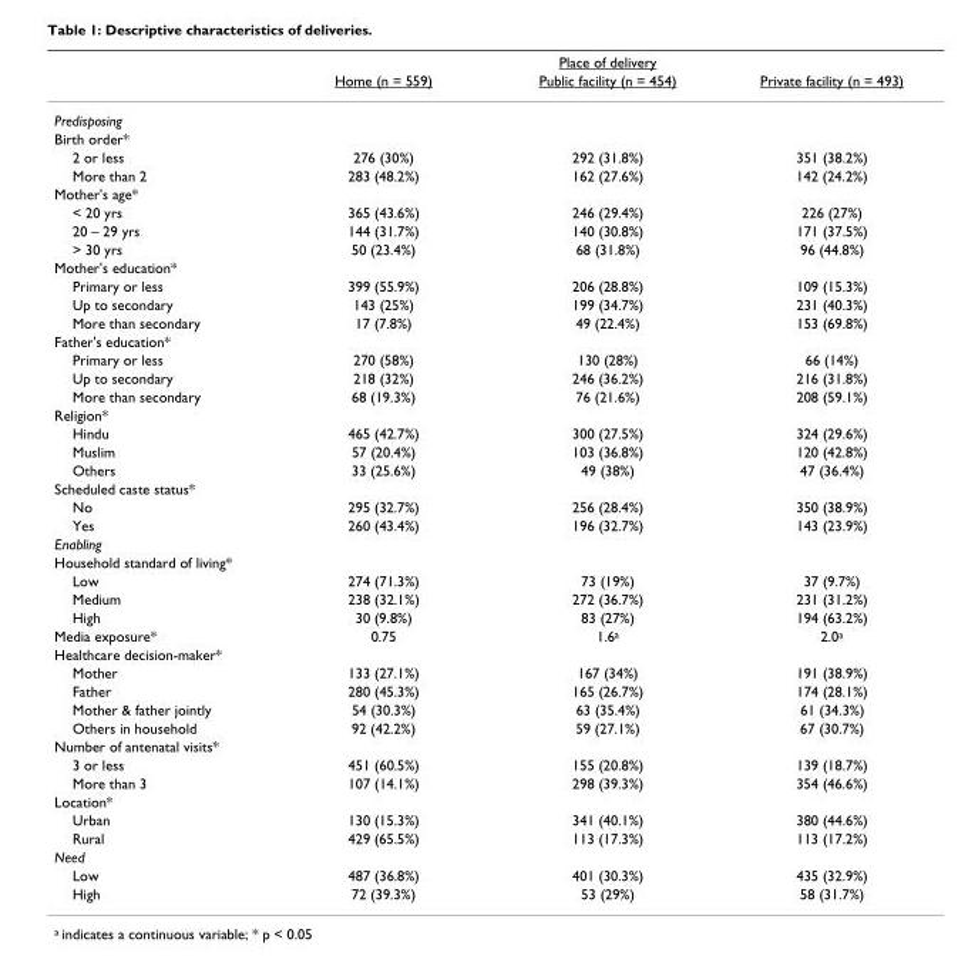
<table><thead><tr><td rowspan="2"></td><td colspan="3">Place of delivery</td></tr><tr><td>Home (n = 559)</td><td>Public facility (n = 454)</td><td>Private facility (n = 493)</td></tr></thead><tbody><tr><td colspan="4">Predisposing</td></tr><tr><td colspan="4">Birth order*</td></tr><tr><td>2 or less</td><td>276 (30%)</td><td>292 (31.8%)</td><td>351 (38.2%)</td></tr><tr><td>More than 2</td><td>283 (48.2%)</td><td>162 (27.6%)</td><td>142 (24.2%)</td></tr><tr><td colspan="4">Mother&#x27;s age*</td></tr><tr><td>&lt; 20 yrs</td><td>365 (43.6%)</td><td>246 (29.4%)</td><td>226 (27%)</td></tr><tr><td>20 – 29 yrs</td><td>144 (31.7%)</td><td>140 (30.8%)</td><td>171 (37.5%)</td></tr><tr><td>&gt; 30 yrs</td><td>50 (23.4%)</td><td>68 (31.8%)</td><td>96 (44.8%)</td></tr><tr><td colspan="4">Mother&#x27;s education*</td></tr><tr><td>Primary or less</td><td>399 (55.9%)</td><td>206 (28.8%)</td><td>109 (15.3%)</td></tr><tr><td>Up to secondary</td><td>143 (25%)</td><td>199 (34.7%)</td><td>231 (40.3%)</td></tr><tr><td>More than secondary</td><td>17 (7.8%)</td><td>49 (22.4%)</td><td>153 (69.8%)</td></tr><tr><td colspan="4">Father&#x27;s education*</td></tr><tr><td>Primary or less</td><td>270 (58%)</td><td>130 (28%)</td><td>66 (14%)</td></tr><tr><td>Up to secondary</td><td>218 (32%)</td><td>246 (36.2%)</td><td>216 (31.8%)</td></tr><tr><td>More than secondary</td><td>68 (19.3%)</td><td>76 (21.6%)</td><td>208 (59.1%)</td></tr><tr><td colspan="4">Religion*</td></tr><tr><td>Hindu</td><td>465 (42.7%)</td><td>300 (27.5%)</td><td>324 (29.6%)</td></tr><tr><td>Muslim</td><td>57 (20.4%)</td><td>103 (36.8%)</td><td>120 (42.8%)</td></tr><tr><td>Others</td><td>33 (25.6%)</td><td>49 (38%)</td><td>47 (36.4%)</td></tr><tr><td colspan="4">Scheduled caste status*</td></tr><tr><td>No</td><td>295 (32.7%)</td><td>256 (28.4%)</td><td>350 (38.9%)</td></tr><tr><td>Yes</td><td>260 (43.4%)</td><td>196 (32.7%)</td><td>143 (23.9%)</td></tr><tr><td colspan="4">Enabling</td></tr><tr><td colspan="4">Household standard of living*</td></tr><tr><td>Low</td><td>274 (71.3%)</td><td>73 (19%)</td><td>37 (9.7%)</td></tr><tr><td>Medium</td><td>238 (32.1%)</td><td>272 (36.7%)</td><td>231 (31.2%)</td></tr><tr><td>High</td><td>30 (9.8%)</td><td>83 (27%)</td><td>194 (63.2%)</td></tr><tr><td>Media exposure*</td><td>0.75</td><td>1.6<sup>a</sup></td><td>2.0<sup>a</sup></td></tr><tr><td colspan="4">Healthcare decision-maker*</td></tr><tr><td>Mother</td><td>133 (27.1%)</td><td>167 (34%)</td><td>191 (38.9%)</td></tr><tr><td>Father</td><td>280 (45.3%)</td><td>165 (26.7%)</td><td>174 (28.1%)</td></tr><tr><td>Mother &amp; father jointly</td><td>54 (30.3%)</td><td>63 (35.4%)</td><td>61 (34.3%)</td></tr><tr><td>Others in household</td><td>92 (42.2%)</td><td>59 (27.1%)</td><td>67 (30.7%)</td></tr><tr><td colspan="4">Number of antenatal visits*</td></tr><tr><td>3 or less</td><td>451 (60.5%)</td><td>155 (20.8%)</td><td>139 (18.7%)</td></tr><tr><td>More than 3</td><td>107 (14.1%)</td><td>298 (39.3%)</td><td>354 (46.6%)</td></tr><tr><td colspan="4">Location*</td></tr><tr><td>Urban</td><td>130 (15.3%)</td><td>341 (40.1%)</td><td>380 (44.6%)</td></tr><tr><td>Rural</td><td>429 (65.5%)</td><td>113 (17.3%)</td><td>113 (17.2%)</td></tr><tr><td colspan="4">Need</td></tr><tr><td>Low</td><td>487 (36.8%)</td><td>401 (30.3%)</td><td>435 (32.9%)</td></tr><tr><td>High</td><td>72 (39.3%)</td><td>53 (29%)</td><td>58 (31.7%)</td></tr></tbody></table>